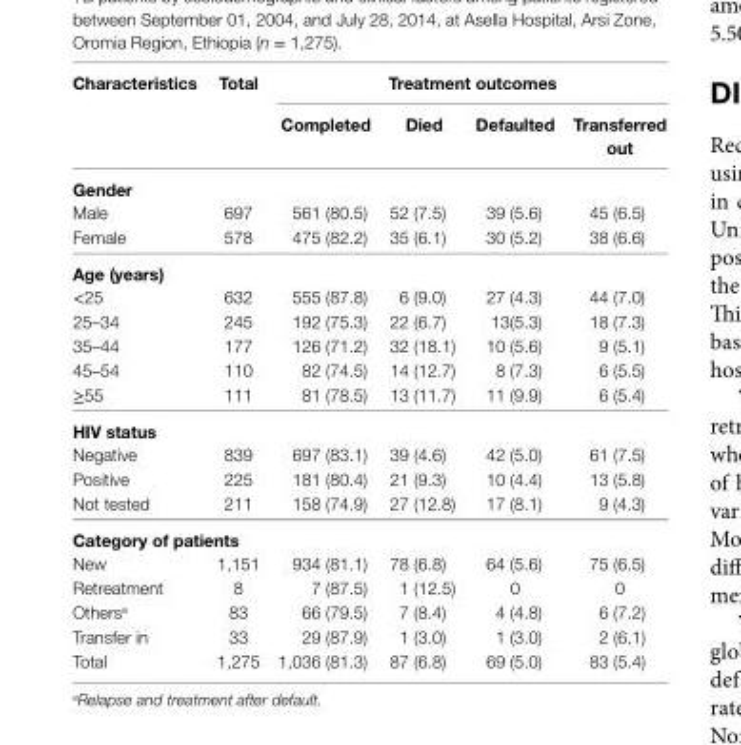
<table><thead><tr><td rowspan="2">characteristics</td><td rowspan="2">Total</td><td colspan="4">Treatment outcomes</td></tr><tr><td>completed</td><td>Died</td><td>Defaulted</td><td>Transferred out</td></tr></thead><tbody><tr><td colspan="6">gender</td></tr><tr><td>Male</td><td>697</td><td>561 (80.5)</td><td>52 (7.5)</td><td>39 (5.6)</td><td>45 (6.5)</td></tr><tr><td>Female</td><td>578</td><td>475 (82.2)</td><td>35 (6.1)</td><td>30 (5.2)</td><td>38 (6.6)</td></tr><tr><td colspan="6">age (years)</td></tr><tr><td>&lt;25</td><td>632</td><td>555 (87.8)</td><td>6 (9.0)</td><td>27 (4.3)</td><td>44 (7.0)</td></tr><tr><td>25–34</td><td>245</td><td>192 (75.3)</td><td>22 (6.7)</td><td>13(5.3)</td><td>18 (7.3)</td></tr><tr><td>35–44</td><td>177</td><td>126 (71.2)</td><td>32 (18.1)</td><td>10 (5.6)</td><td>9 (5.1)</td></tr><tr><td>45–54</td><td>110</td><td>82 (74.5)</td><td>14 (12.7)</td><td>8 (7.3)</td><td>6 (5.5)</td></tr><tr><td>≥55</td><td>111</td><td>81 (78.5)</td><td>13 (11.7)</td><td>11 (9.9)</td><td>6 (5.4)</td></tr><tr><td colspan="6">hiV status</td></tr><tr><td>Negative</td><td>839</td><td>697 (83.1)</td><td>39 (4.6)</td><td>42 (5.0)</td><td>61 (7.5)</td></tr><tr><td>Positive</td><td>225</td><td>181 (80.4)</td><td>21 (9.3)</td><td>10 (4.4)</td><td>13 (5.8)</td></tr><tr><td>Not tested</td><td>211</td><td>158 (74.9)</td><td>27 (12.8)</td><td>17 (8.1)</td><td>9 (4.3)</td></tr><tr><td colspan="6">category of patients</td></tr><tr><td>New</td><td>1,151</td><td>934 (81.1)</td><td>78 (6.8)</td><td>64 (5.6)</td><td>75 (6.5)</td></tr><tr><td>Retreatment</td><td>8</td><td>7 (87.5)</td><td>1 (12.5)</td><td>0</td><td>0</td></tr><tr><td>Others<sup>a</sup></td><td>83</td><td>66 (79.5)</td><td>7 (8.4)</td><td>4 (4.8)</td><td>6 (7.2)</td></tr><tr><td>Transfer in</td><td>33</td><td>29 (87.9)</td><td>1 (3.0)</td><td>1 (3.0)</td><td>2 (6.1)</td></tr><tr><td>Total</td><td>1,275</td><td>1,036 (81.3)</td><td>87 (6.8)</td><td>69 (5.0)</td><td>83 (5.4)</td></tr></tbody></table>